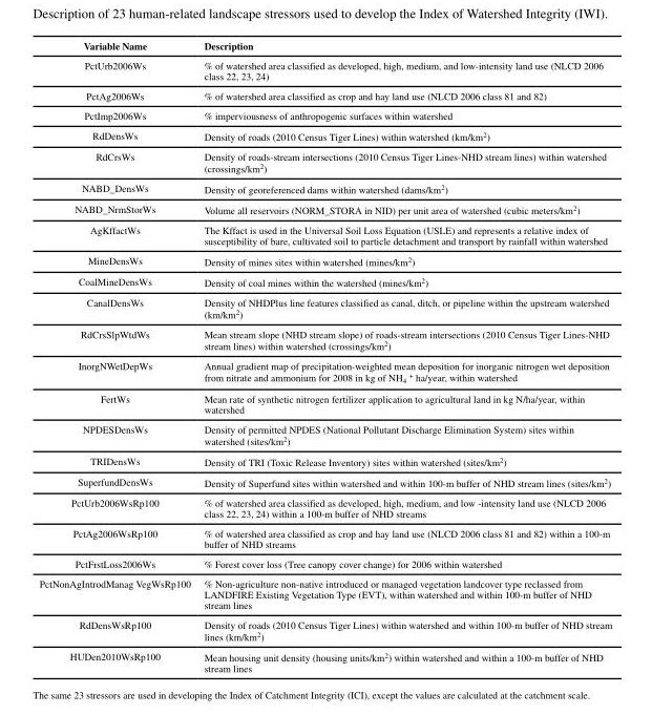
<table><thead><tr><td>Variable Name</td><td>Description</td></tr></thead><tbody><tr><td>PctUrb2006Ws</td><td>% of watershed area classified as developed, high, medium, and low-intensity land use (NLCD 2006 class 22, 23, 24)</td></tr><tr><td>PctAg2006Ws</td><td>% of watershed area classified as crop and hay land use (NLCD 2006 class 81 and 82)</td></tr><tr><td>PctImp2006Ws</td><td>% imperviousness of anthropogenic surfaces within watershed</td></tr><tr><td>RdDensWs</td><td>Density of roads (2010 Census Tiger Lines) within watershed (km/km<sup>2</sup>)</td></tr><tr><td>RdCrsWs</td><td>Density of roads-stream intersections (2010 Census Tiger Lines-NHD stream lines) within watershed (crossings/km<sup>2</sup>)</td></tr><tr><td>NABD_DensWs</td><td>Density of georeferenced dams within watershed (dams/km<sup>2</sup>)</td></tr><tr><td>NABD_NrmStorWs</td><td>Volume all reservoirs (NORM_STORA in NID) per unit area of watershed (cubic meters/km<sup>2</sup>)</td></tr><tr><td>AgKffactWs</td><td>The Kffact is used in the Universal Soil Loss Equation (USLE) and represents a relative index of susceptibility of bare, cultivated soil to particle detachment and transport by rainfall within watershed</td></tr><tr><td>MineDensWs</td><td>Density of mines sites within watershed (mines/km<sup>2</sup>)</td></tr><tr><td>CoalMineDensWs</td><td>Density of coal mines within the watershed (mines/km<sup>2</sup>)</td></tr><tr><td>CanalDensWs</td><td>Density of NHDPlus line features classified as canal, ditch, or pipeline within the upstream watershed (km/km<sup>2</sup>)</td></tr><tr><td>RdCrsSlpWtdWs</td><td>Mean stream slope (NHD stream slope) of roads-stream intersections (2010 Census Tiger Lines-NHD stream lines) within watershed (crossings/km<sup>2</sup>)</td></tr><tr><td>InorgNWetDepWs</td><td>Annual gradient map of precipitation-weighted mean deposition for inorganic nitrogen wet deposition from nitrate and ammonium for 2008 in kg of NH<sub>4</sub> <sup>+</sup> ha/year, within watershed</td></tr><tr><td>FertWs</td><td>Mean rate of synthetic nitrogen fertilizer application to agricultural land in kg N/ha/year, within watershed</td></tr><tr><td>NPDESDensWs</td><td>Density of permitted NPDES (National Pollutant Discharge Elimination System) sites within watershed (sites/km<sup>2</sup>)</td></tr><tr><td>TRIDensWs</td><td>Density of TRI (Toxic Release Inventory) sites within watershed (sites/km<sup>2</sup>)</td></tr><tr><td>SuperfundDensWs</td><td>Density of Superfund sites within watershed and within 100-m buffer of NHD stream lines (sites/km<sup>2</sup>)</td></tr><tr><td>PctUrb2006WsRp100</td><td>% of watershed area classified as developed, high, medium, and low -intensity land use (NLCD 2006 class 22, 23, 24) within a 100-m buffer of NHD streams</td></tr><tr><td>PctAg2006WsRp100</td><td>% of watershed area classified as crop and hay land use (NLCD 2006 class 81 and 82) within a 100-m buffer of NHD streams</td></tr><tr><td>PctFrstLoss2006Ws</td><td>% Forest cover loss (Tree canopy cover change) for 2006 within watershed</td></tr><tr><td>PctNonAgIntrodManag VegWsRp100</td><td>% Non-agriculture non-native introduced or managed vegetation landcover type reclassed from LANDFIRE Existing Vegetation Type (EVT), within watershed and within 100-m buffer of NHD stream lines</td></tr><tr><td>RdDensWsRp100</td><td>Density of roads (2010 Census Tiger Lines) within watershed and within 100-m buffer of NHD stream lines (km/km<sup>2</sup>)</td></tr><tr><td>HUDen2010WsRp100</td><td>Mean housing unit density (housing units/km<sup>2</sup>) within watershed and within a 100-m buffer of NHD stream lines</td></tr></tbody></table>